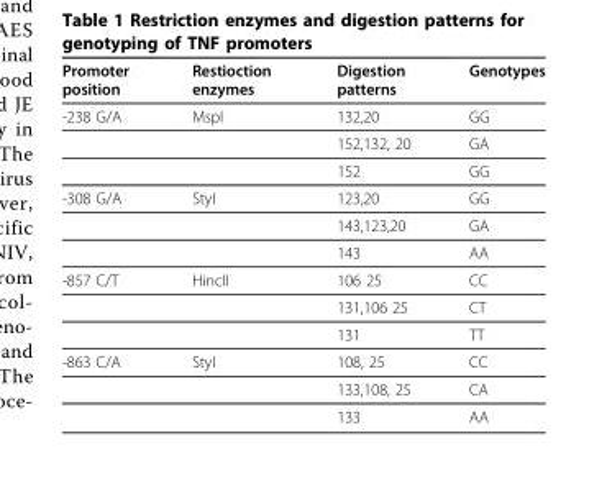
<table><thead><tr><td>Promoter position</td><td>Restioction enzymes</td><td>Digestion patterns</td><td>Genotypes</td></tr></thead><tbody><tr><td rowspan="3">-238 G/A</td><td>MspI</td><td>132,20</td><td>GG</td></tr><tr><td></td><td>152,132, 20</td><td>GA</td></tr><tr><td></td><td>152</td><td>GG</td></tr><tr><td rowspan="3">-308 G/A</td><td>StyI</td><td>123,20</td><td>GG</td></tr><tr><td></td><td>143,123,20</td><td>GA</td></tr><tr><td></td><td>143</td><td>AA</td></tr><tr><td rowspan="3">-857 C/T</td><td>HincII</td><td>106 25</td><td>CC</td></tr><tr><td></td><td>131,106 25</td><td>CT</td></tr><tr><td></td><td>131</td><td>TT</td></tr><tr><td rowspan="3">-863 C/A</td><td>StyI</td><td>108, 25</td><td>CC</td></tr><tr><td></td><td>133,108, 25</td><td>CA</td></tr><tr><td></td><td>133</td><td>AA</td></tr></tbody></table>